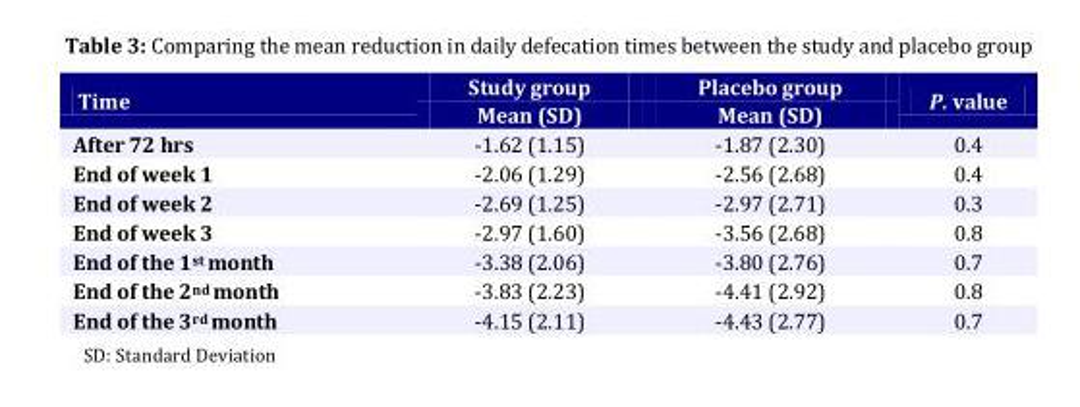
<table><thead><tr><td rowspan="2">Time</td><td rowspan="2">Study group Mean (SD)</td><td rowspan="2">Placebo group Mean (SD)</td><td rowspan="2">P. value</td></tr><tr></tr></thead><tbody><tr><td>After 72 hrs</td><td>-1.62 (1.15)</td><td>-1.87 (2.30)</td><td>0.4</td></tr><tr><td>End of week 1</td><td>-2.06 (1.29)</td><td>-2.56 (2.68)</td><td>0.4</td></tr><tr><td>End of week 2</td><td>-2.69 (1.25)</td><td>-2.97 (2.71)</td><td>0.3</td></tr><tr><td>End of week 3</td><td>-2.97 (1.60)</td><td>-3.56 (2.68)</td><td>0.8</td></tr><tr><td>End of the 1<sup>st</sup> month</td><td>-3.38 (2.06)</td><td>-3.80 (2.76)</td><td>0.7</td></tr><tr><td>End of the 2<sup>nd</sup> month</td><td>-3.83 (2.23)</td><td>-4.41 (2.92)</td><td>0.8</td></tr><tr><td>End of the 3<sup>rd</sup> month</td><td>-4.15 (2.11)</td><td>-4.43 (2.77)</td><td>0.7</td></tr></tbody></table>